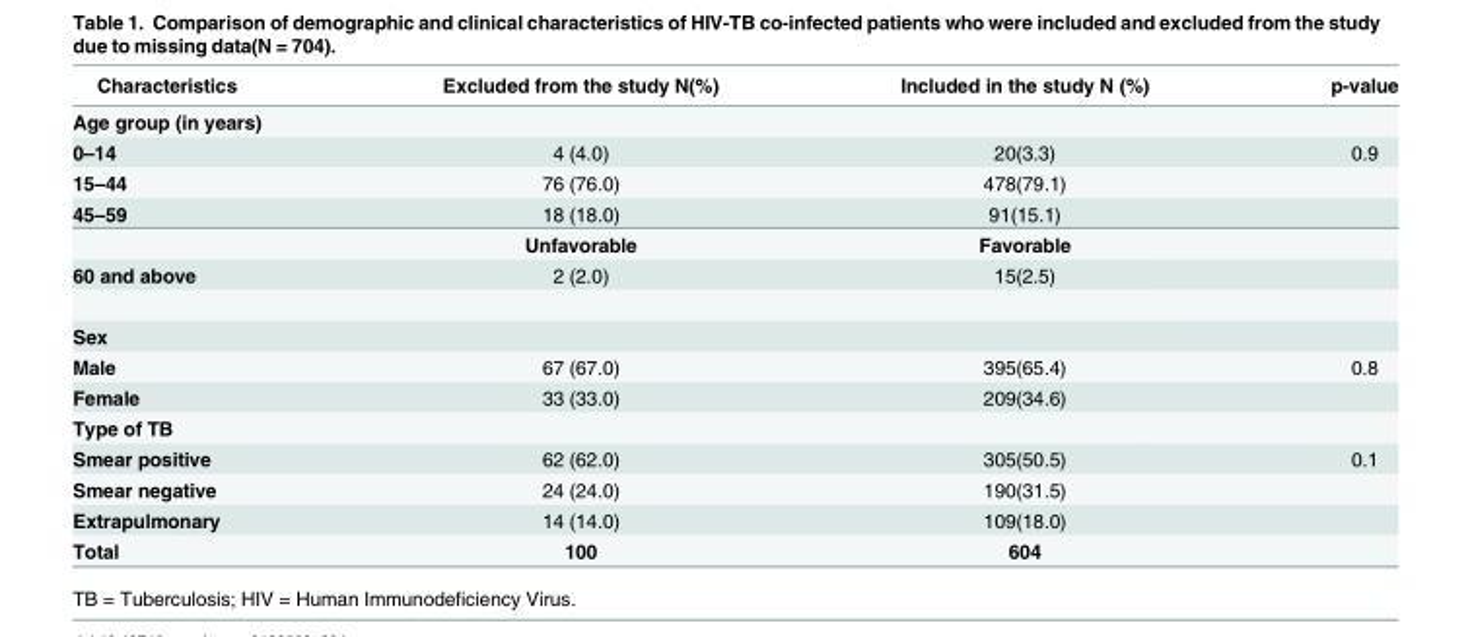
<table><thead><tr><td>Characteristics</td><td>Excluded from the study N(%)</td><td>Included in the study N (%)</td><td>p-value</td></tr></thead><tbody><tr><td colspan="4">Age group (in years)</td></tr><tr><td>0–14</td><td>4 (4.0)</td><td>20(3.3)</td><td>0.9</td></tr><tr><td>15–44</td><td>76 (76.0)</td><td>478(79.1)</td><td></td></tr><tr><td rowspan="2">45–59</td><td>18 (18.0)</td><td>91(15.1)</td><td></td></tr><tr><td>Unfavorable</td><td>Favorable</td><td></td></tr><tr><td>60 and above</td><td>2 (2.0)</td><td>15(2.5)</td><td></td></tr><tr><td colspan="4">Sex</td></tr><tr><td>Male</td><td>67 (67.0)</td><td>395(65.4)</td><td>0.8</td></tr><tr><td>Female</td><td>33 (33.0)</td><td>209(34.6)</td><td></td></tr><tr><td colspan="4">Type of TB</td></tr><tr><td>Smear positive</td><td>62 (62.0)</td><td>305(50.5)</td><td>0.1</td></tr><tr><td>Smear negative</td><td>24 (24.0)</td><td>190(31.5)</td><td></td></tr><tr><td>Extrapulmonary</td><td>14 (14.0)</td><td>109(18.0)</td><td></td></tr><tr><td>Total</td><td>100</td><td>604</td><td></td></tr></tbody></table>